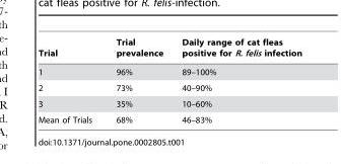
<table><thead><tr><td>Trial</td><td>Trial prevalence</td><td>Daily range of cat fleas positive for R. felis infection</td></tr></thead><tbody><tr><td>1</td><td>96%</td><td>89–100%</td></tr><tr><td>2</td><td>73%</td><td>40–90%</td></tr><tr><td>3</td><td>35%</td><td>10–60%</td></tr><tr><td>Mean of Trials</td><td>68%</td><td>46–83%</td></tr></tbody></table>